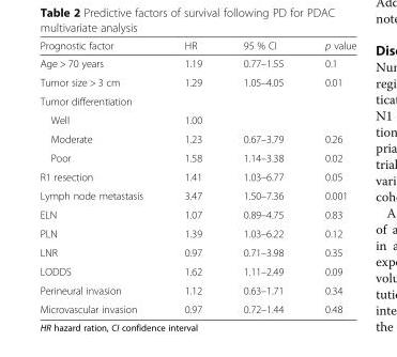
<table><thead><tr><td>Prognostic factor</td><td>HR</td><td>95 % CI</td><td>p value</td></tr></thead><tbody><tr><td>Age &gt; 70 years</td><td>1.19</td><td>0.77–1.55</td><td>0.1</td></tr><tr><td>Tumor size &gt; 3 cm</td><td>1.29</td><td>1.05–4.05</td><td>0.01</td></tr><tr><td colspan="4">Tumor differentiation</td></tr><tr><td>Well</td><td>1.00</td><td></td><td></td></tr><tr><td>Moderate</td><td>1.23</td><td>0.67–3.79</td><td>0.26</td></tr><tr><td>Poor</td><td>1.58</td><td>1.14–3.38</td><td>0.02</td></tr><tr><td>R1 resection</td><td>1.41</td><td>1.03–6.77</td><td>0.05</td></tr><tr><td>Lymph node metastasis</td><td>3.47</td><td>1.50–7.36</td><td>0.001</td></tr><tr><td>ELN</td><td>1.07</td><td>0.89–4.75</td><td>0.83</td></tr><tr><td>PLN</td><td>1.39</td><td>1.03–6.22</td><td>0.12</td></tr><tr><td>LNR</td><td>0.97</td><td>0.71–3.98</td><td>0.35</td></tr><tr><td>LODDS</td><td>1.62</td><td>1.11–2.49</td><td>0.09</td></tr><tr><td>Perineural invasion</td><td>1.12</td><td>0.63–1.71</td><td>0.34</td></tr><tr><td>Microvascular invasion</td><td>0.97</td><td>0.72–1.44</td><td>0.48</td></tr></tbody></table>